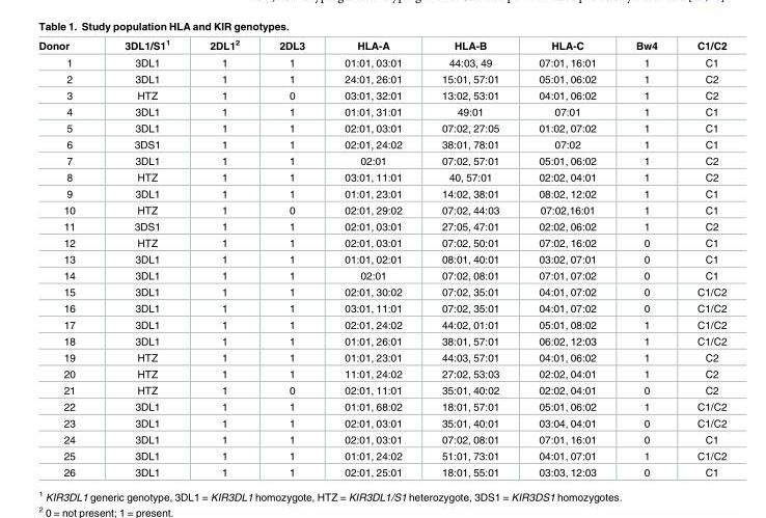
<table><thead><tr><td>Donor</td><td>3DL1/S1<sup>1</sup></td><td>2DL1<sup>2</sup></td><td>2DL3</td><td>HLA-A</td><td>HLA-B</td><td>HLA-C</td><td>Bw4</td><td>C1/C2</td></tr></thead><tbody><tr><td>1</td><td>3DL1</td><td>1</td><td>1</td><td>01:01, 03:01</td><td>44:03, 49</td><td>07:01, 16:01</td><td>1</td><td>C1</td></tr><tr><td>2</td><td>3DL1</td><td>1</td><td>1</td><td>24:01, 26:01</td><td>15:01, 57:01</td><td>05:01, 06:02</td><td>1</td><td>C2</td></tr><tr><td>3</td><td>HTZ</td><td>1</td><td>0</td><td>03:01, 32:01</td><td>13:02, 53:01</td><td>04:01, 06:02</td><td>1</td><td>C2</td></tr><tr><td>4</td><td>3DL1</td><td>1</td><td>1</td><td>01:01, 31:01</td><td>49:01</td><td>07:01</td><td>1</td><td>C1</td></tr><tr><td>5</td><td>3DL1</td><td>1</td><td>1</td><td>02:01, 03:01</td><td>07:02, 27:05</td><td>01:02, 07:02</td><td>1</td><td>C1</td></tr><tr><td>6</td><td>3DS1</td><td>1</td><td>1</td><td>02:01, 24:02</td><td>38:01, 78:01</td><td>07:02</td><td>1</td><td>C1</td></tr><tr><td>7</td><td>3DL1</td><td>1</td><td>1</td><td>02:01</td><td>07:02, 57:01</td><td>05:01, 06:02</td><td>1</td><td>C2</td></tr><tr><td>8</td><td>HTZ</td><td>1</td><td>1</td><td>03:01, 11:01</td><td>40, 57:01</td><td>02:02, 04:01</td><td>1</td><td>C2</td></tr><tr><td>9</td><td>3DL1</td><td>1</td><td>1</td><td>01:01, 23:01</td><td>14:02, 38:01</td><td>08:02, 12:02</td><td>1</td><td>C1</td></tr><tr><td>10</td><td>HTZ</td><td>1</td><td>0</td><td>02:01, 29:02</td><td>07:02, 44:03</td><td>07:02,16:01</td><td>1</td><td>C1</td></tr><tr><td>11</td><td>3DS1</td><td>1</td><td>1</td><td>02:01, 03:01</td><td>27:05, 47:01</td><td>02:02, 06:02</td><td>1</td><td>C2</td></tr><tr><td>12</td><td>HTZ</td><td>1</td><td>1</td><td>02:01, 03:01</td><td>07:02, 50:01</td><td>07:02, 16:02</td><td>0</td><td>C1</td></tr><tr><td>13</td><td>3DL1</td><td>1</td><td>1</td><td>01:01, 02:01</td><td>08:01, 40:01</td><td>03:02, 07:01</td><td>0</td><td>C1</td></tr><tr><td>14</td><td>3DL1</td><td>1</td><td>1</td><td>02:01</td><td>07:02, 08:01</td><td>07:01, 07:02</td><td>0</td><td>C1</td></tr><tr><td>15</td><td>3DL1</td><td>1</td><td>1</td><td>02:01, 30:02</td><td>07:02, 35:01</td><td>04:01, 07:02</td><td>0</td><td>C1/C2</td></tr><tr><td>16</td><td>3DL1</td><td>1</td><td>1</td><td>03:01, 11:01</td><td>07:02, 35:01</td><td>04:01, 07:02</td><td>0</td><td>C1/C2</td></tr><tr><td>17</td><td>3DL1</td><td>1</td><td>1</td><td>02:01, 24:02</td><td>44:02, 01:01</td><td>05:01, 08:02</td><td>1</td><td>C1/C2</td></tr><tr><td>18</td><td>3DL1</td><td>1</td><td>1</td><td>01:01, 26:01</td><td>38:01, 57:01</td><td>06:02, 12:03</td><td>1</td><td>C1/C2</td></tr><tr><td>19</td><td>HTZ</td><td>1</td><td>1</td><td>01:01, 23:01</td><td>44:03, 57:01</td><td>04:01, 06:02</td><td>1</td><td>C2</td></tr><tr><td>20</td><td>HTZ</td><td>1</td><td>1</td><td>11:01, 24:02</td><td>27:02, 53:03</td><td>02:02, 04:01</td><td>1</td><td>C2</td></tr><tr><td>21</td><td>HTZ</td><td>1</td><td>0</td><td>02:01, 11:01</td><td>35:01, 40:02</td><td>02:02, 04:01</td><td>0</td><td>C2</td></tr><tr><td>22</td><td>3DL1</td><td>1</td><td>1</td><td>01:01, 68:02</td><td>18:01, 57:01</td><td>05:01, 06:02</td><td>1</td><td>C1/C2</td></tr><tr><td>23</td><td>3DL1</td><td>1</td><td>1</td><td>02:01, 03:01</td><td>35:01, 40:01</td><td>03:04, 04:01</td><td>0</td><td>C1/C2</td></tr><tr><td>24</td><td>3DL1</td><td>1</td><td>1</td><td>02:01, 03:01</td><td>07:02, 08:01</td><td>07:01, 16:01</td><td>0</td><td>C1</td></tr><tr><td>25</td><td>3DL1</td><td>1</td><td>1</td><td>01:01, 24:02</td><td>51:01, 73:01</td><td>04:01, 07:01</td><td>1</td><td>C1/C2</td></tr><tr><td>26</td><td>3DL1</td><td>1</td><td>1</td><td>02:01, 25:01</td><td>18:01, 55:01</td><td>03:03, 12:03</td><td>0</td><td>C1</td></tr></tbody></table>